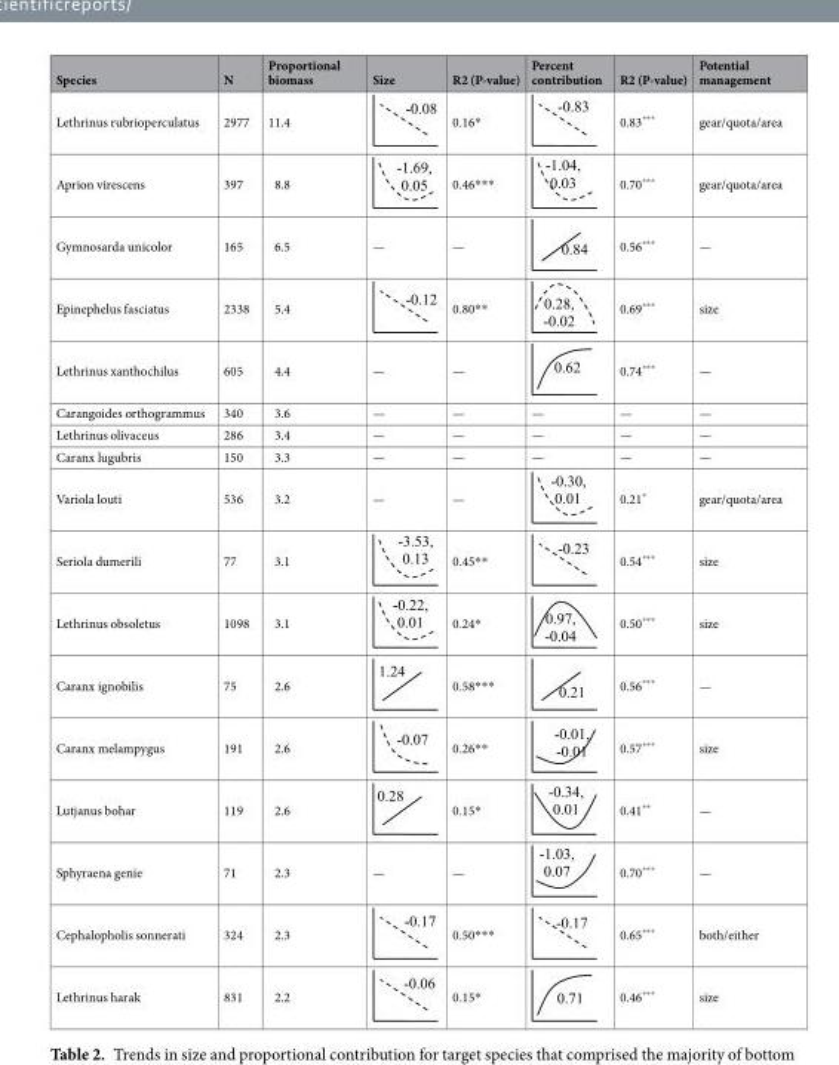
<table><thead><tr><td>Species</td><td>N</td><td>Proportional biomass</td><td>Size</td><td>R2 (P-value)</td><td>Percent contribution</td><td>R2 (P-value)</td><td>Potential management</td></tr></thead><tbody><tr><td>Lethrinus rubrioperculatus</td><td>2977</td><td>11.4</td><td></td><td>0.16*</td><td></td><td>0.83***</td><td>gear/quota/area</td></tr><tr><td>Aprion virescens</td><td>397</td><td>8.8</td><td></td><td>0.46***</td><td></td><td>0.70***</td><td>gear/quota/area</td></tr><tr><td>Gymnosarda unicolor</td><td>165</td><td>6.5</td><td>—</td><td>—</td><td></td><td>0.56***</td><td>—</td></tr><tr><td>Epinephelus fasciatus</td><td>2338</td><td>5.4</td><td></td><td>0.80**</td><td></td><td>0.69***</td><td>size</td></tr><tr><td>Lethrinus xanthochilus</td><td>605</td><td>4.4</td><td>—</td><td>—</td><td></td><td>0.74***</td><td>—</td></tr><tr><td>Carangoides orthogrammus</td><td>340</td><td>3.6</td><td>—</td><td>—</td><td>—</td><td>—</td><td>—</td></tr><tr><td>Lethrinus olivaceus</td><td>286</td><td>3.4</td><td>—</td><td>—</td><td>—</td><td>—</td><td>—</td></tr><tr><td>Caranx lugubris</td><td>150</td><td>3.3</td><td>—</td><td>—</td><td>—</td><td>—</td><td>—</td></tr><tr><td>Variola louti</td><td>536</td><td>3.2</td><td>—</td><td>—</td><td></td><td>0.21*</td><td>gear/quota/area</td></tr><tr><td>Seriola dumerili</td><td>77</td><td>3.1</td><td></td><td>0.45**</td><td></td><td>0.54***</td><td>size</td></tr><tr><td>Lethrinus obsoletus</td><td>1098</td><td>3.1</td><td></td><td>0.24*</td><td></td><td>0.50***</td><td>size</td></tr><tr><td>Caranx ignobilis</td><td>75</td><td>2.6</td><td></td><td>0.58***</td><td></td><td>0.56***</td><td>—</td></tr><tr><td>Caranx melampygus</td><td>191</td><td>2.6</td><td></td><td>0.26**</td><td></td><td>0.57***</td><td>size</td></tr><tr><td>Lutjanus bohar</td><td>119</td><td>2.6</td><td></td><td>0.15*</td><td></td><td>0.41**</td><td>—</td></tr><tr><td>Sphyraena genie</td><td>71</td><td>2.3</td><td>—</td><td>—</td><td></td><td>0.70***</td><td>—</td></tr><tr><td>Cephalopholis sonnerati</td><td>324</td><td>2.3</td><td></td><td>0.50***</td><td></td><td>0.65***</td><td>both/either</td></tr><tr><td>Lethrinus harak</td><td>831</td><td>2.2</td><td></td><td>0.15*</td><td></td><td>0.46***</td><td>size</td></tr></tbody></table>